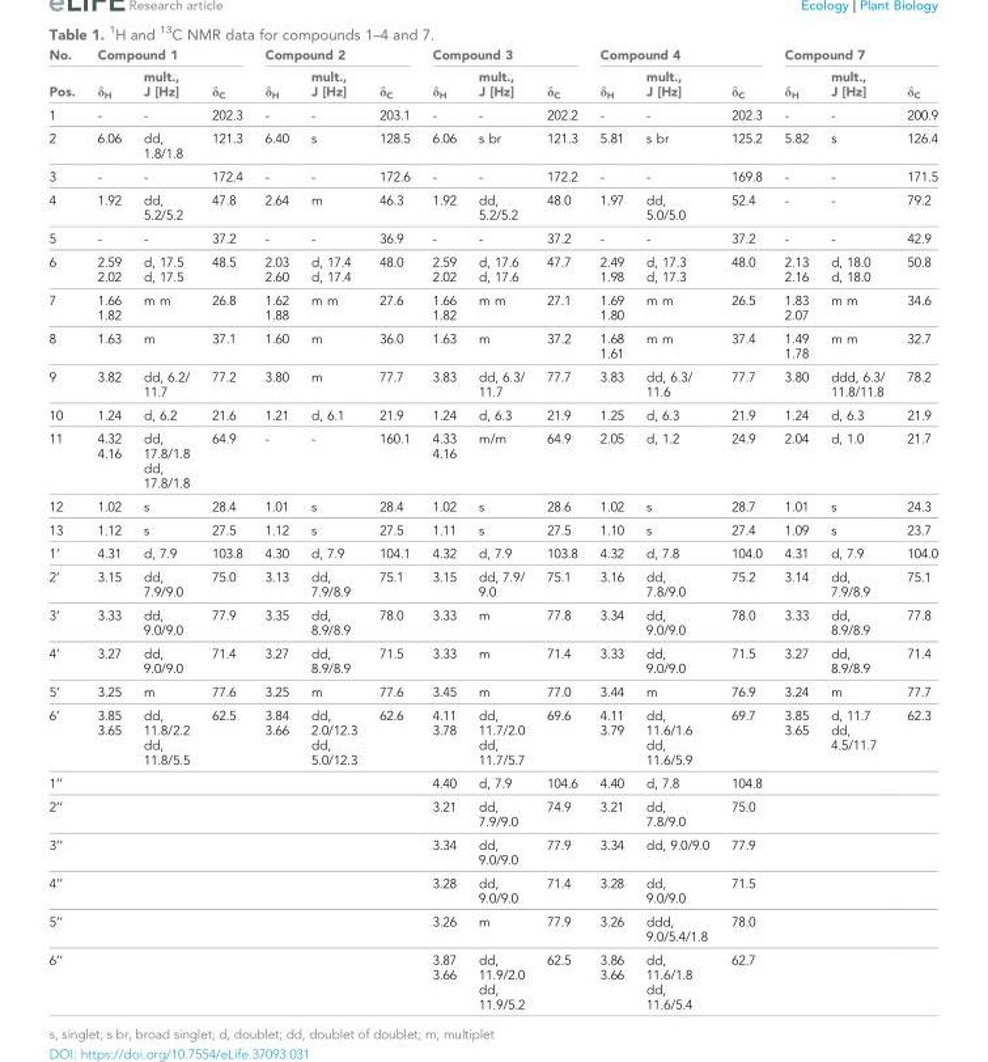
<table><thead><tr><td rowspan="2">No. Pos.</td><td colspan="3">Compound 1</td><td colspan="3">Compound 2</td><td colspan="3">Compound 3</td><td colspan="3">Compound 4</td><td colspan="3">Compound 7</td></tr><tr><td>δ<sub>H</sub></td><td>mult., J [Hz]</td><td>δ<sub>C</sub></td><td>δ<sub>H</sub></td><td>mult., J [Hz]</td><td>δ<sub>C</sub></td><td>δ<sub>H</sub></td><td>mult., J [Hz]</td><td>δ<sub>C</sub></td><td>δ<sub>H</sub></td><td>mult., J [Hz]</td><td>δ<sub>C</sub></td><td>δ<sub>H</sub></td><td>mult., J [Hz]</td><td>δ<sub>C</sub></td></tr></thead><tbody><tr><td>1</td><td>-</td><td>-</td><td>202.3</td><td>-</td><td>-</td><td>203.1</td><td>-</td><td>-</td><td>202.2</td><td>-</td><td>-</td><td>202.3</td><td>-</td><td>-</td><td>200.9</td></tr><tr><td>2</td><td>6.06</td><td>dd, 1.8/1.8</td><td>121.3</td><td>6.40</td><td>s</td><td>128.5</td><td>6.06</td><td>s br</td><td>121.3</td><td>5.81</td><td>s br</td><td>125.2</td><td>5.82</td><td>s</td><td>126.4</td></tr><tr><td>3</td><td>-</td><td>-</td><td>172.4</td><td>-</td><td>-</td><td>172.6</td><td>-</td><td>-</td><td>172.2</td><td>-</td><td>-</td><td>169.8</td><td>-</td><td>-</td><td>171.5</td></tr><tr><td>4</td><td>1.92</td><td>dd, 5.2/5.2</td><td>47.8</td><td>2.64</td><td>m</td><td>46.3</td><td>1.92</td><td>dd, 5.2/5.2</td><td>48.0</td><td>1.97</td><td>dd, 5.0/5.0</td><td>52.4</td><td>-</td><td>-</td><td>79.2</td></tr><tr><td>5</td><td>-</td><td>-</td><td>37.2</td><td>-</td><td>-</td><td>36.9</td><td>-</td><td>-</td><td>37.2</td><td>-</td><td>-</td><td>37.2</td><td>-</td><td>-</td><td>42.9</td></tr><tr><td>6</td><td>2.59 2.02</td><td>d, 17.5 d, 17.5</td><td>48.5</td><td>2.03 2.60</td><td>d, 17.4 d, 17.4</td><td>48.0</td><td>2.59 2.02</td><td>d, 17.6 d, 17.6</td><td>47.7</td><td>2.49 1.98</td><td>d, 17.3 d, 17.3</td><td>48.0</td><td>2.13 2.16</td><td>d, 18.0 d, 18.0</td><td>50.8</td></tr><tr><td>7</td><td>1.66 1.82</td><td>m m</td><td>26.8</td><td>1.62 1.88</td><td>m m</td><td>27.6</td><td>1.66 1.82</td><td>m m</td><td>27.1</td><td>1.69 1.80</td><td>m m</td><td>26.5</td><td>1.83 2.07</td><td>m m</td><td>34.6</td></tr><tr><td>8</td><td>1.63</td><td>m</td><td>37.1</td><td>1.60</td><td>m</td><td>36.0</td><td>1.63</td><td>m</td><td>37.2</td><td>1.68 1.61</td><td>m m</td><td>37.4</td><td>1.49 1.78</td><td>m m</td><td>32.7</td></tr><tr><td>9</td><td>3.82</td><td>dd, 6.2/ 11.7</td><td>77.2</td><td>3.80</td><td>m</td><td>77.7</td><td>3.83</td><td>dd, 6.3/ 11.7</td><td>77.7</td><td>3.83</td><td>dd, 6.3/ 11.6</td><td>77.7</td><td>3.80</td><td>ddd, 6.3/ 11.8/11.8</td><td>78.2</td></tr><tr><td>10</td><td>1.24</td><td>d, 6.2</td><td>21.6</td><td>1.21</td><td>d, 6.1</td><td>21.9</td><td>1.24</td><td>d, 6.3</td><td>21.9</td><td>1.25</td><td>d, 6.3</td><td>21.9</td><td>1.24</td><td>d, 6.3</td><td>21.9</td></tr><tr><td>11</td><td>4.32 4.16</td><td>dd, 17.8/1.8 dd, 17.8/1.8</td><td>64.9</td><td>-</td><td>-</td><td>160.1</td><td>4.33 4.16</td><td>m/m</td><td>64.9</td><td>2.05</td><td>d, 1.2</td><td>24.9</td><td>2.04</td><td>d, 1.0</td><td>21.7</td></tr><tr><td>12</td><td>1.02</td><td>s</td><td>28.4</td><td>1.01</td><td>s</td><td>28.4</td><td>1.02</td><td>s</td><td>28.6</td><td>1.02</td><td>s</td><td>28.7</td><td>1.01</td><td>s</td><td>24.3</td></tr><tr><td>13</td><td>1.12</td><td>s</td><td>27.5</td><td>1.12</td><td>s</td><td>27.5</td><td>1.11</td><td>s</td><td>27.5</td><td>1.10</td><td>s</td><td>27.4</td><td>1.09</td><td>s</td><td>23.7</td></tr><tr><td>1’</td><td>4.31</td><td>d, 7.9</td><td>103.8</td><td>4.30</td><td>d, 7.9</td><td>104.1</td><td>4.32</td><td>d, 7.9</td><td>103.8</td><td>4.32</td><td>d, 7.8</td><td>104.0</td><td>4.31</td><td>d, 7.9</td><td>104.0</td></tr><tr><td>2’</td><td>3.15</td><td>dd, 7.9/9.0</td><td>75.0</td><td>3.13</td><td>dd, 7.9/8.9</td><td>75.1</td><td>3.15</td><td>dd, 7.9/ 9.0</td><td>75.1</td><td>3.16</td><td>dd, 7.8/9.0</td><td>75.2</td><td>3.14</td><td>dd, 7.9/8.9</td><td>75.1</td></tr><tr><td>3’</td><td>3.33</td><td>dd, 9.0/9.0</td><td>77.9</td><td>3.35</td><td>dd, 8.9/8.9</td><td>78.0</td><td>3.33</td><td>m</td><td>77.8</td><td>3.34</td><td>dd, 9.0/9.0</td><td>78.0</td><td>3.33</td><td>dd, 8.9/8.9</td><td>77.8</td></tr><tr><td>4’</td><td>3.27</td><td>dd, 9.0/9.0</td><td>71.4</td><td>3.27</td><td>dd, 8.9/8.9</td><td>71.5</td><td>3.33</td><td>m</td><td>71.4</td><td>3.33</td><td>dd, 9.0/9.0</td><td>71.5</td><td>3.27</td><td>dd, 8.9/8.9</td><td>71.4</td></tr><tr><td>5’</td><td>3.25</td><td>m</td><td>77.6</td><td>3.25</td><td>m</td><td>77.6</td><td>3.45</td><td>m</td><td>77.0</td><td>3.44</td><td>m</td><td>76.9</td><td>3.24</td><td>m</td><td>77.7</td></tr><tr><td>6’</td><td>3.85 3.65</td><td>dd, 11.8/2.2 dd, 11.8/5.5</td><td>62.5</td><td>3.84 3.66</td><td>dd, 2.0/12.3 dd, 5.0/12.3</td><td>62.6</td><td>4.11 3.78</td><td>dd, 11.7/2.0 dd, 11.7/5.7</td><td>69.6</td><td>4.11 3.79</td><td>dd, 11.6/1.6 dd, 11.6/5.9</td><td>69.7</td><td>3.85 3.65</td><td>d, 11.7 dd, 4.5/11.7</td><td>62.3</td></tr><tr><td>1’’</td><td></td><td></td><td></td><td></td><td></td><td></td><td>4.40</td><td>d, 7.9</td><td>104.6</td><td>4.40</td><td>d, 7.8</td><td>104.8</td><td></td><td></td><td></td></tr><tr><td>2’’</td><td></td><td></td><td></td><td></td><td></td><td></td><td>3.21</td><td>dd, 7.9/9.0</td><td>74.9</td><td>3.21</td><td>dd, 7.8/9.0</td><td>75.0</td><td></td><td></td><td></td></tr><tr><td>3’’</td><td></td><td></td><td></td><td></td><td></td><td></td><td>3.34</td><td>dd, 9.0/9.0</td><td>77.9</td><td>3.34</td><td>dd, 9.0/9.0</td><td>77.9</td><td></td><td></td><td></td></tr><tr><td>4’’</td><td></td><td></td><td></td><td></td><td></td><td></td><td>3.28</td><td>dd, 9.0/9.0</td><td>71.4</td><td>3.28</td><td>dd, 9.0/9.0</td><td>71.5</td><td></td><td></td><td></td></tr><tr><td>5’’</td><td></td><td></td><td></td><td></td><td></td><td></td><td>3.26</td><td>m</td><td>77.9</td><td>3.26</td><td>ddd, 9.0/5.4/1.8</td><td>78.0</td><td></td><td></td><td></td></tr><tr><td>6’’</td><td></td><td></td><td></td><td></td><td></td><td></td><td>3.87 3.66</td><td>dd, 11.9/2.0 dd, 11.9/5.2</td><td>62.5</td><td>3.86 3.66</td><td>dd, 11.6/1.8 dd, 11.6/5.4</td><td>62.7</td><td></td><td></td><td></td></tr></tbody></table>